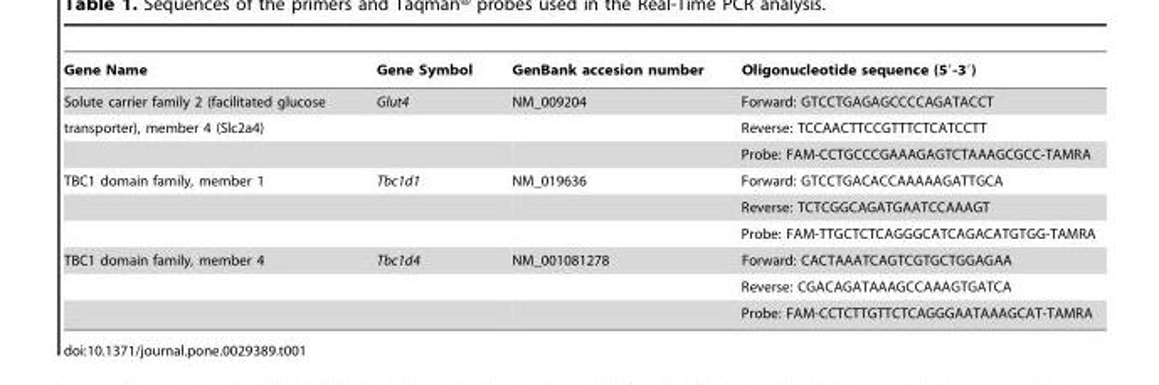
<table><thead><tr><td>Gene Name</td><td>Gene Symbol</td><td>GenBank accesion number</td><td>Oligonucleotide sequence (5′-3′)</td></tr></thead><tbody><tr><td>Solute carrier family 2 (facilitated glucose</td><td>Glut4</td><td>NM_009204</td><td>Forward: GTCCTGAGAGCCCCAGATACCT</td></tr><tr><td rowspan="2">transporter), member 4 (Slc2a4)</td><td></td><td></td><td>Reverse: TCCAACTTCCGTTTCTCATCCTT</td></tr><tr><td></td><td></td><td>Probe: FAM-CCTGCCCGAAAGAGTCTAAAGCGCC-TAMRA</td></tr><tr><td rowspan="3">TBC1 domain family, member 1</td><td>Tbc1d1</td><td>NM_019636</td><td>Forward: GTCCTGACACCAAAAAGATTGCA</td></tr><tr><td></td><td></td><td>Reverse: TCTCGGCAGATGAATCCAAAGT</td></tr><tr><td></td><td></td><td>Probe: FAM-TTGCTCTCAGGGCATCAGACATGTGG-TAMRA</td></tr><tr><td rowspan="3">TBC1 domain family, member 4</td><td>Tbc1d4</td><td>NM_001081278</td><td>Forward: CACTAAATCAGTCGTGCTGGAGAA</td></tr><tr><td></td><td></td><td>Reverse: CGACAGATAAAGCCAAAGTGATCA</td></tr><tr><td></td><td></td><td>Probe: FAM-CCTCTTGTTCTCAGGGAATAAAGCAT-TAMRA</td></tr></tbody></table>